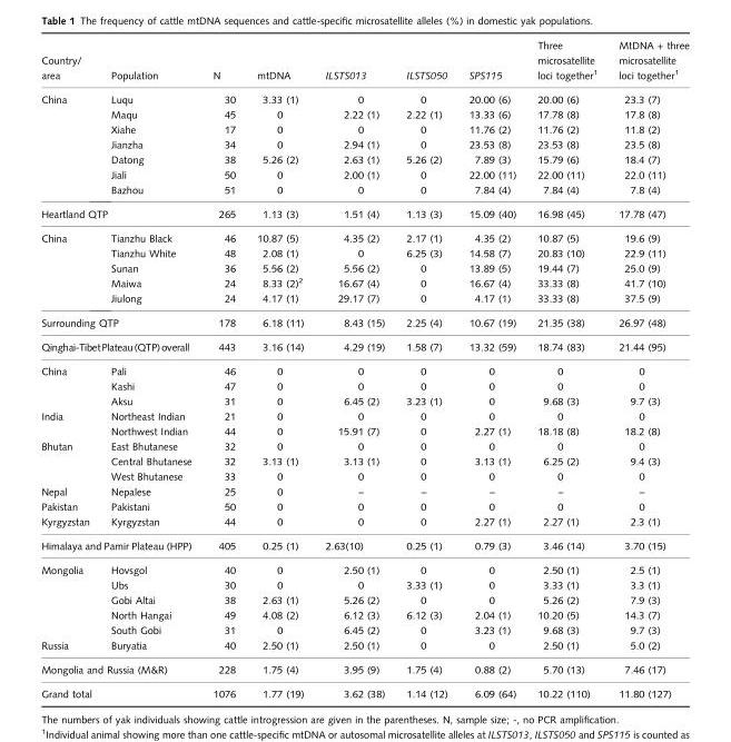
<table><thead><tr><td>Country/ area</td><td>Population</td><td>N</td><td>mtDNA</td><td>ILSTS013</td><td>ILSTS050</td><td>SPS115</td><td>Three microsatellite loci together<sup>1</sup></td><td>MtDNA + three microsatellite loci together<sup>1</sup></td></tr></thead><tbody><tr><td rowspan="7">China</td><td>Luqu</td><td>30</td><td>3.33 (1)</td><td>0</td><td>0</td><td>20.00 (6)</td><td>20.00 (6)</td><td>23.3 (7)</td></tr><tr><td>Maqu</td><td>45</td><td>0</td><td>2.22 (1)</td><td>2.22 (1)</td><td>13.33 (6)</td><td>17.78 (8)</td><td>17.8 (8)</td></tr><tr><td>Xiahe</td><td>17</td><td>0</td><td>0</td><td>0</td><td>11.76 (2)</td><td>11.76 (2)</td><td>11.8 (2)</td></tr><tr><td>Jianzha</td><td>34</td><td>0</td><td>2.94 (1)</td><td>0</td><td>23.53 (8)</td><td>23.53 (8)</td><td>23.5 (8)</td></tr><tr><td>Datong</td><td>38</td><td>5.26 (2)</td><td>2.63 (1)</td><td>5.26 (2)</td><td>7.89 (3)</td><td>15.79 (6)</td><td>18.4 (7)</td></tr><tr><td>Jiali</td><td>50</td><td>0</td><td>2.00 (1)</td><td>0</td><td>22.00 (11)</td><td>22.00 (11)</td><td>22.0 (11)</td></tr><tr><td>Bazhou</td><td>51</td><td>0</td><td>0</td><td>0</td><td>7.84 (4)</td><td>7.84 (4)</td><td>7.8 (4)</td></tr><tr><td colspan="2">Heartland QTP</td><td>265</td><td>1.13 (3)</td><td>1.51 (4)</td><td>1.13 (3)</td><td>15.09 (40)</td><td>16.98 (45)</td><td>17.78 (47)</td></tr><tr><td rowspan="5">China</td><td>Tianzhu Black</td><td>46</td><td>10.87 (5)</td><td>4.35 (2)</td><td>2.17 (1)</td><td>4.35 (2)</td><td>10.87 (5)</td><td>19.6 (9)</td></tr><tr><td>Tianzhu White</td><td>48</td><td>2.08 (1)</td><td>0</td><td>6.25 (3)</td><td>14.58 (7)</td><td>20.83 (10)</td><td>22.9 (11)</td></tr><tr><td>Sunan</td><td>36</td><td>5.56 (2)</td><td>5.56 (2)</td><td>0</td><td>13.89 (5)</td><td>19.44 (7)</td><td>25.0 (9)</td></tr><tr><td>Maiwa</td><td>24</td><td>8.33 (2)<sup>2</sup></td><td>16.67 (4)</td><td>0</td><td>16.67 (4)</td><td>33.33 (8)</td><td>41.7 (10)</td></tr><tr><td>Jiulong</td><td>24</td><td>4.17 (1)</td><td>29.17 (7)</td><td>0</td><td>4.17 (1)</td><td>33.33 (8)</td><td>37.5 (9)</td></tr><tr><td colspan="2">Surrounding QTP</td><td>178</td><td>6.18 (11)</td><td>8.43 (15)</td><td>2.25 (4)</td><td>10.67 (19)</td><td>21.35 (38)</td><td>26.97 (48)</td></tr><tr><td colspan="2">Qinghai-TibetPlateau(QTP)overall</td><td>443</td><td>3.16 (14)</td><td>4.29 (19)</td><td>1.58 (7)</td><td>13.32 (59)</td><td>18.74 (83)</td><td>21.44 (95)</td></tr><tr><td rowspan="3">China</td><td>Pali</td><td>46</td><td>0</td><td>0</td><td>0</td><td>0</td><td>0</td><td>0</td></tr><tr><td>Kashi</td><td>47</td><td>0</td><td>0</td><td>0</td><td>0</td><td>0</td><td>0</td></tr><tr><td>Aksu</td><td>31</td><td>0</td><td>6.45 (2)</td><td>3.23 (1)</td><td>0</td><td>9.68 (3)</td><td>9.7 (3)</td></tr><tr><td rowspan="2">India</td><td>Northeast Indian</td><td>21</td><td>0</td><td>0</td><td>0</td><td>0</td><td>0</td><td>0</td></tr><tr><td>Northwest Indian</td><td>44</td><td>0</td><td>15.91 (7)</td><td>0</td><td>2.27 (1)</td><td>18.18 (8)</td><td>18.2 (8)</td></tr><tr><td rowspan="3">Bhutan</td><td>East Bhutanese</td><td>32</td><td>0</td><td>0</td><td>0</td><td>0</td><td>0</td><td>0</td></tr><tr><td>Central Bhutanese</td><td>32</td><td>3.13 (1)</td><td>3.13 (1)</td><td>0</td><td>3.13 (1)</td><td>6.25 (2)</td><td>9.4 (3)</td></tr><tr><td>West Bhutanese</td><td>33</td><td>0</td><td>0</td><td>0</td><td>0</td><td>0</td><td>0</td></tr><tr><td>Nepal</td><td>Nepalese</td><td>25</td><td>0</td><td>–</td><td>–</td><td>–</td><td>–</td><td>–</td></tr><tr><td>Pakistan</td><td>Pakistani</td><td>50</td><td>0</td><td>0</td><td>0</td><td>0</td><td>0</td><td>0</td></tr><tr><td>Kyrgyzstan</td><td>Kyrgyzstan</td><td>44</td><td>0</td><td>0</td><td>0</td><td>2.27 (1)</td><td>2.27 (1)</td><td>2.3 (1)</td></tr><tr><td colspan="2">Himalaya and Pamir Plateau (HPP)</td><td>405</td><td>0.25 (1)</td><td>2.63(10)</td><td>0.25 (1)</td><td>0.79 (3)</td><td>3.46 (14)</td><td>3.70 (15)</td></tr><tr><td rowspan="5">Mongolia</td><td>Hovsgol</td><td>40</td><td>0</td><td>2.50 (1)</td><td>0</td><td>0</td><td>2.50 (1)</td><td>2.5 (1)</td></tr><tr><td>Ubs</td><td>30</td><td>0</td><td>0</td><td>3.33 (1)</td><td>0</td><td>3.33 (1)</td><td>3.3 (1)</td></tr><tr><td>Gobi Altai</td><td>38</td><td>2.63 (1)</td><td>5.26 (2)</td><td>0</td><td>0</td><td>5.26 (2)</td><td>7.9 (3)</td></tr><tr><td>North Hangai</td><td>49</td><td>4.08 (2)</td><td>6.12 (3)</td><td>6.12 (3)</td><td>2.04 (1)</td><td>10.20 (5)</td><td>14.3 (7)</td></tr><tr><td>South Gobi</td><td>31</td><td>0</td><td>6.45 (2)</td><td>0</td><td>3.23 (1)</td><td>9.68 (3)</td><td>9.7 (3)</td></tr><tr><td>Russia</td><td>Buryatia</td><td>40</td><td>2.50 (1)</td><td>2.50 (1)</td><td>0</td><td>0</td><td>2.50 (1)</td><td>5.0 (2)</td></tr><tr><td colspan="2">Mongolia and Russia (M&amp;R)</td><td>228</td><td>1.75 (4)</td><td>3.95 (9)</td><td>1.75 (4)</td><td>0.88 (2)</td><td>5.70 (13)</td><td>7.46 (17)</td></tr><tr><td colspan="2">Grand total</td><td>1076</td><td>1.77 (19)</td><td>3.62 (38)</td><td>1.14 (12)</td><td>6.09 (64)</td><td>10.22 (110)</td><td>11.80 (127)</td></tr></tbody></table>